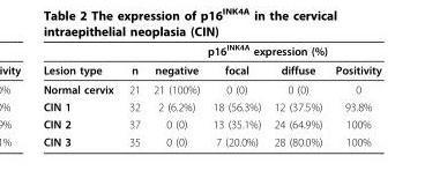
<table><thead><tr><td rowspan="2">Lesion type</td><td rowspan="2">n</td><td colspan="4">p16<sup>INK4A</sup> expression (%)</td></tr><tr><td>negative</td><td>focal</td><td>diffuse</td><td>Positivity</td></tr></thead><tbody><tr><td>Normal cervix</td><td>21</td><td>21 (100%)</td><td>0 (0)</td><td>0 (0)</td><td>0</td></tr><tr><td>CIN 1</td><td>32</td><td>2 (6.2%)</td><td>18 (56.3%)</td><td>12 (37.5%)</td><td>93.8%</td></tr><tr><td>CIN 2</td><td>37</td><td>0 (0)</td><td>13 (35.1%)</td><td>24 (64.9%)</td><td>100%</td></tr><tr><td>CIN 3</td><td>35</td><td>0 (0)</td><td>7 (20.0%)</td><td>28 (80.0%)</td><td>100%</td></tr></tbody></table>